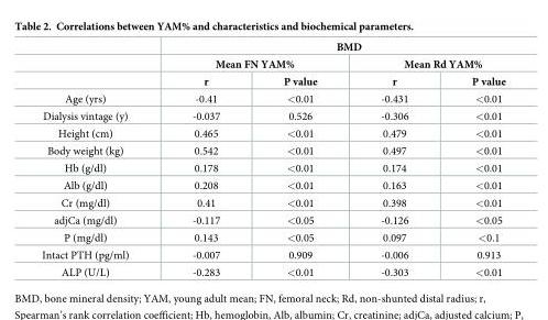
<table><thead><tr><td rowspan="3"></td><td colspan="4">BMD</td></tr><tr><td colspan="2">Mean FN YAM%</td><td colspan="2">Mean Rd YAM%</td></tr><tr><td>r</td><td>P value</td><td>r</td><td>P value</td></tr></thead><tbody><tr><td>Age (yrs)</td><td>-0.41</td><td>&lt;0.01</td><td>-0.431</td><td>&lt;0.01</td></tr><tr><td>Dialysis vintage (y)</td><td>-0.037</td><td>0.526</td><td>-0.306</td><td>&lt;0.01</td></tr><tr><td>Height (cm)</td><td>0.465</td><td>&lt;0.01</td><td>0.479</td><td>&lt;0.01</td></tr><tr><td>Body weight (kg)</td><td>0.542</td><td>&lt;0.01</td><td>0.497</td><td>&lt;0.01</td></tr><tr><td>Hb (g/dl)</td><td>0.178</td><td>&lt;0.01</td><td>0.174</td><td>&lt;0.01</td></tr><tr><td>Alb (g/dl)</td><td>0.208</td><td>&lt;0.01</td><td>0.163</td><td>&lt;0.01</td></tr><tr><td>Cr (mg/dl)</td><td>0.41</td><td>&lt;0.01</td><td>0.398</td><td>&lt;0.01</td></tr><tr><td>adjCa (mg/dl)</td><td>-0.117</td><td>&lt;0.05</td><td>-0.126</td><td>&lt;0.05</td></tr><tr><td>P (mg/dl)</td><td>0.143</td><td>&lt;0.05</td><td>0.097</td><td>&lt;0.1</td></tr><tr><td>Intact PTH (pg/ml)</td><td>-0.007</td><td>0.909</td><td>-0.006</td><td>0.913</td></tr><tr><td>ALP (U/L)</td><td>-0.283</td><td>&lt;0.01</td><td>-0.303</td><td>&lt;0.01</td></tr></tbody></table>